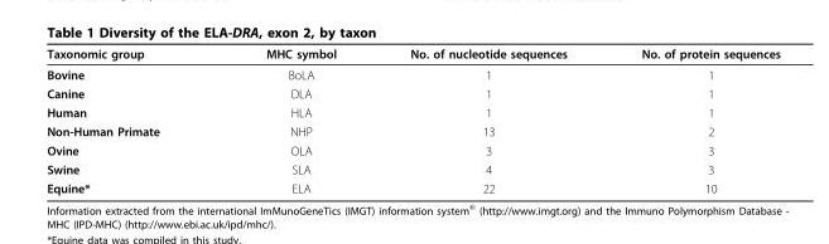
<table><thead><tr><td>Taxonomic group</td><td>MHC symbol</td><td>No. of nucleotide sequences</td><td>No. of protein sequences</td></tr></thead><tbody><tr><td>Bovine</td><td>BoLA</td><td>1</td><td>1</td></tr><tr><td>Canine</td><td>DLA</td><td>1</td><td>1</td></tr><tr><td>Human</td><td>HLA</td><td>1</td><td>1</td></tr><tr><td>Non-Human Primate</td><td>NHP</td><td>13</td><td>2</td></tr><tr><td>Ovine</td><td>OLA</td><td>3</td><td>3</td></tr><tr><td>Swine</td><td>SLA</td><td>4</td><td>3</td></tr><tr><td>Equine*</td><td>ELA</td><td>22</td><td>10</td></tr></tbody></table>